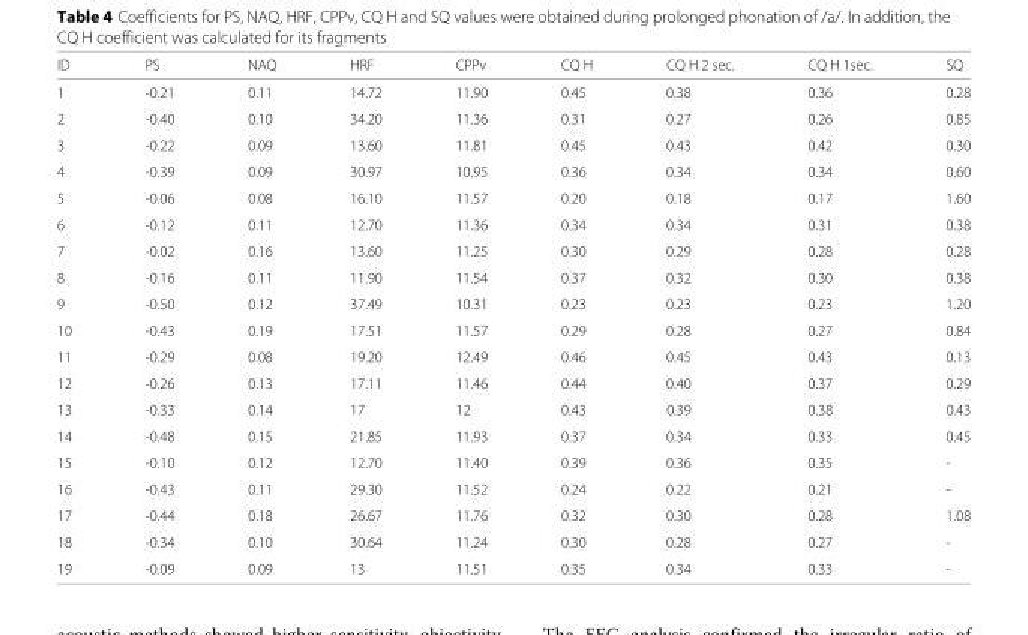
<table><thead><tr><td>ID</td><td>PS</td><td>NAQ</td><td>HRF</td><td>CPPv</td><td>CQ H</td><td>CQ H 2 sec.</td><td>CQ H 1sec.</td><td>SQ</td></tr></thead><tbody><tr><td>1</td><td>-0.21</td><td>0.11</td><td>14.72</td><td>11.90</td><td>0.45</td><td>0.38</td><td>0.36</td><td>0.28</td></tr><tr><td>2</td><td>-0.40</td><td>0.10</td><td>34.20</td><td>11.36</td><td>0.31</td><td>0.27</td><td>0.26</td><td>0.85</td></tr><tr><td>3</td><td>-0.22</td><td>0.09</td><td>13.60</td><td>11.81</td><td>0.45</td><td>0.43</td><td>0.42</td><td>0.30</td></tr><tr><td>4</td><td>-0.39</td><td>0.09</td><td>30.97</td><td>10.95</td><td>0.36</td><td>0.34</td><td>0.34</td><td>0.60</td></tr><tr><td>5</td><td>-0.06</td><td>0.08</td><td>16.10</td><td>11.57</td><td>0.20</td><td>0.18</td><td>0.17</td><td>1.60</td></tr><tr><td>6</td><td>-0.12</td><td>0.11</td><td>12.70</td><td>11.36</td><td>0.34</td><td>0.34</td><td>0.31</td><td>0.38</td></tr><tr><td>7</td><td>-0.02</td><td>0.16</td><td>13.60</td><td>11.25</td><td>0.30</td><td>0.29</td><td>0.28</td><td>0.28</td></tr><tr><td>8</td><td>-0.16</td><td>0.11</td><td>11.90</td><td>11.54</td><td>0.37</td><td>0.32</td><td>0.30</td><td>0.38</td></tr><tr><td>9</td><td>-0.50</td><td>0.12</td><td>37.49</td><td>10.31</td><td>0.23</td><td>0.23</td><td>0.23</td><td>1.20</td></tr><tr><td>10</td><td>-0.43</td><td>0.19</td><td>17.51</td><td>11.57</td><td>0.29</td><td>0.28</td><td>0.27</td><td>0.84</td></tr><tr><td>11</td><td>-0.29</td><td>0.08</td><td>19.20</td><td>12.49</td><td>0.46</td><td>0.45</td><td>0.43</td><td>0.13</td></tr><tr><td>12</td><td>-0.26</td><td>0.13</td><td>17.11</td><td>11.46</td><td>0.44</td><td>0.40</td><td>0.37</td><td>0.29</td></tr><tr><td>13</td><td>-0.33</td><td>0.14</td><td>17</td><td>12</td><td>0.43</td><td>0.39</td><td>0.38</td><td>0.43</td></tr><tr><td>14</td><td>-0.48</td><td>0.15</td><td>21.85</td><td>11.93</td><td>0.37</td><td>0.34</td><td>0.33</td><td>0.45</td></tr><tr><td>15</td><td>-0.10</td><td>0.12</td><td>12.70</td><td>11.40</td><td>0.39</td><td>0.36</td><td>0.35</td><td>-</td></tr><tr><td>16</td><td>-0.43</td><td>0.11</td><td>29.30</td><td>11.52</td><td>0.24</td><td>0.22</td><td>0.21</td><td>-</td></tr><tr><td>17</td><td>-0.44</td><td>0.18</td><td>26.67</td><td>11.76</td><td>0.32</td><td>0.30</td><td>0.28</td><td>1.08</td></tr><tr><td>18</td><td>-0.34</td><td>0.10</td><td>30.64</td><td>11.24</td><td>0.30</td><td>0.28</td><td>0.27</td><td>-</td></tr><tr><td>19</td><td>-0.09</td><td>0.09</td><td>13</td><td>11.51</td><td>0.35</td><td>0.34</td><td>0.33</td><td>-</td></tr></tbody></table>